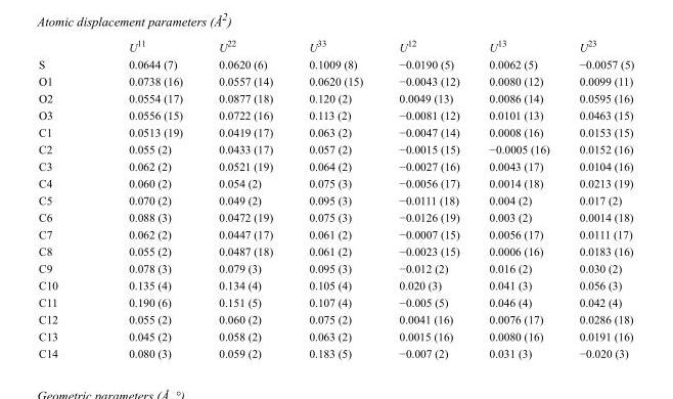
<table><thead><tr><td></td><td>U<sup>11</sup></td><td>U<sup>22</sup></td><td>U<sup>33</sup></td><td>U<sup>12</sup></td><td>U<sup>13</sup></td><td>U<sup>23</sup></td></tr></thead><tbody><tr><td>S</td><td>0.0644 (7)</td><td>0.0620 (6)</td><td>0.1009 (8)</td><td>−0.0190 (5)</td><td>0.0062 (5)</td><td>−0.0057 (5)</td></tr><tr><td>O1</td><td>0.0738 (16)</td><td>0.0557 (14)</td><td>0.0620 (15)</td><td>−0.0043 (12)</td><td>0.0080 (12)</td><td>0.0099 (11)</td></tr><tr><td>O2</td><td>0.0554 (17)</td><td>0.0877 (18)</td><td>0.120 (2)</td><td>0.0049 (13)</td><td>0.0086 (14)</td><td>0.0595 (16)</td></tr><tr><td>O3</td><td>0.0556 (15)</td><td>0.0722 (16)</td><td>0.113 (2)</td><td>−0.0081 (12)</td><td>0.0101 (13)</td><td>0.0463 (15)</td></tr><tr><td>C1</td><td>0.0513 (19)</td><td>0.0419 (17)</td><td>0.063 (2)</td><td>−0.0047 (14)</td><td>0.0008 (16)</td><td>0.0153 (15)</td></tr><tr><td>C2</td><td>0.055 (2)</td><td>0.0433 (17)</td><td>0.057 (2)</td><td>−0.0015 (15)</td><td>−0.0005 (16)</td><td>0.0152 (16)</td></tr><tr><td>C3</td><td>0.062 (2)</td><td>0.0521 (19)</td><td>0.064 (2)</td><td>−0.0027 (16)</td><td>0.0043 (17)</td><td>0.0104 (16)</td></tr><tr><td>C4</td><td>0.060 (2)</td><td>0.054 (2)</td><td>0.075 (3)</td><td>−0.0056 (17)</td><td>0.0014 (18)</td><td>0.0213 (19)</td></tr><tr><td>C5</td><td>0.070 (2)</td><td>0.049 (2)</td><td>0.095 (3)</td><td>−0.0111 (18)</td><td>0.004 (2)</td><td>0.017 (2)</td></tr><tr><td>C6</td><td>0.088 (3)</td><td>0.0472 (19)</td><td>0.075 (3)</td><td>−0.0126 (19)</td><td>0.003 (2)</td><td>0.0014 (18)</td></tr><tr><td>C7</td><td>0.062 (2)</td><td>0.0447 (17)</td><td>0.061 (2)</td><td>−0.0007 (15)</td><td>0.0056 (17)</td><td>0.0111 (17)</td></tr><tr><td>C8</td><td>0.055 (2)</td><td>0.0487 (18)</td><td>0.061 (2)</td><td>−0.0023 (15)</td><td>0.0006 (16)</td><td>0.0183 (16)</td></tr><tr><td>C9</td><td>0.078 (3)</td><td>0.079 (3)</td><td>0.095 (3)</td><td>−0.012 (2)</td><td>0.016 (2)</td><td>0.030 (2)</td></tr><tr><td>C10</td><td>0.135 (4)</td><td>0.134 (4)</td><td>0.105 (4)</td><td>0.020 (3)</td><td>0.041 (3)</td><td>0.056 (3)</td></tr><tr><td>C11</td><td>0.190 (6)</td><td>0.151 (5)</td><td>0.107 (4)</td><td>−0.005 (5)</td><td>0.046 (4)</td><td>0.042 (4)</td></tr><tr><td>C12</td><td>0.055 (2)</td><td>0.060 (2)</td><td>0.075 (2)</td><td>0.0041 (16)</td><td>0.0076 (17)</td><td>0.0286 (18)</td></tr><tr><td>C13</td><td>0.045 (2)</td><td>0.058 (2)</td><td>0.063 (2)</td><td>0.0015 (16)</td><td>0.0080 (16)</td><td>0.0191 (16)</td></tr><tr><td>C14</td><td>0.080 (3)</td><td>0.059 (2)</td><td>0.183 (5)</td><td>−0.007 (2)</td><td>0.031 (3)</td><td>−0.020 (3)</td></tr></tbody></table>